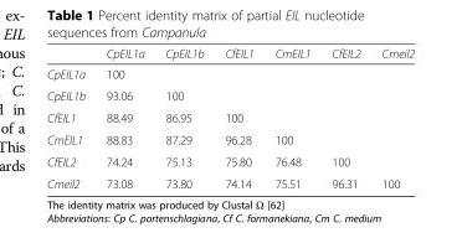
<table><thead><tr><td></td><td>CpEIL1a</td><td>CpEIL1b</td><td>CfEIL1</td><td>CmEIL1</td><td>CfEIL2</td><td>Cmeil2</td></tr></thead><tbody><tr><td>CpEIL1a</td><td>100</td><td></td><td></td><td></td><td></td><td></td></tr><tr><td>CpEIL1b</td><td>93.06</td><td>100</td><td></td><td></td><td></td><td></td></tr><tr><td>CfEIL1</td><td>88.49</td><td>86.95</td><td>100</td><td></td><td></td><td></td></tr><tr><td>CmEIL1</td><td>88.83</td><td>87.29</td><td>96.28</td><td>100</td><td></td><td></td></tr><tr><td>CfEIL2</td><td>74.24</td><td>75.13</td><td>75.80</td><td>76.48</td><td>100</td><td></td></tr><tr><td>Cmeil2</td><td>73.08</td><td>73.80</td><td>74.14</td><td>75.51</td><td>96.31</td><td>100</td></tr></tbody></table>